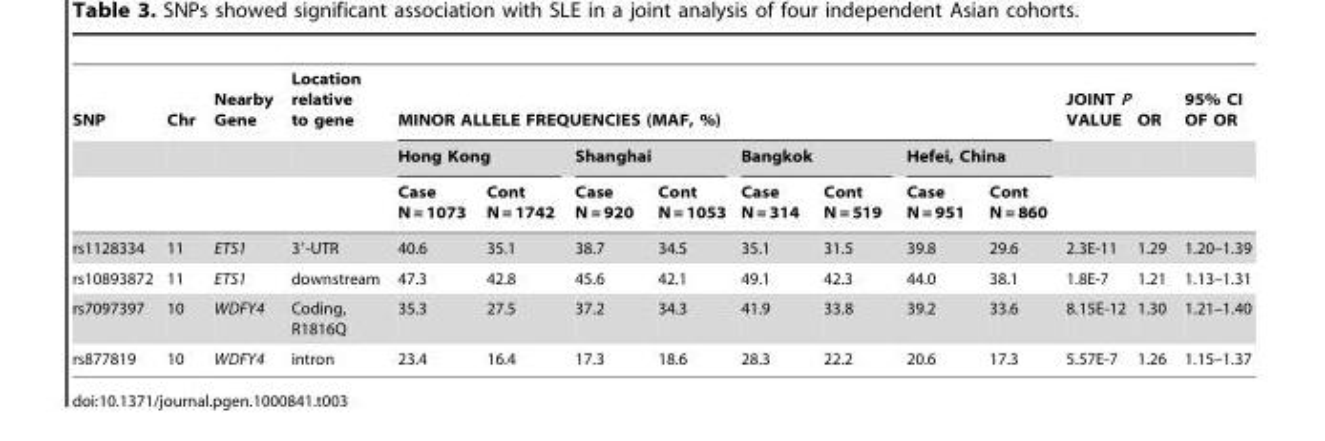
<table><thead><tr><td rowspan="3">SNP</td><td rowspan="3">Chr</td><td rowspan="3">Nearby Gene</td><td rowspan="3">Location relative to gene</td><td colspan="8">MINOR ALLELE FREQUENCIES (MAF, %)</td><td rowspan="3">JOINT P VALUE</td><td rowspan="3">OR</td><td rowspan="3">95% CI OF OR</td></tr><tr><td colspan="2">Hong Kong</td><td colspan="2">Shanghai</td><td colspan="2">Bangkok</td><td colspan="2">Hefei, China</td></tr><tr><td>Case N = 1073</td><td>Cont N = 1742</td><td>Case N = 920</td><td>Cont N = 1053</td><td>Case N = 314</td><td>Cont N = 519</td><td>Case N = 951</td><td>Cont N = 860</td></tr></thead><tbody><tr><td>rs1128334</td><td>11</td><td>ETS1</td><td>3′-UTR</td><td>40.6</td><td>35.1</td><td>38.7</td><td>34.5</td><td>35.1</td><td>31.5</td><td>39.8</td><td>29.6</td><td>2.3E-11</td><td>1.29</td><td>1.20–1.39</td></tr><tr><td>rs10893872</td><td>11</td><td>ETS1</td><td>downstream</td><td>47.3</td><td>42.8</td><td>45.6</td><td>42.1</td><td>49.1</td><td>42.3</td><td>44.0</td><td>38.1</td><td>1.8E-7</td><td>1.21</td><td>1.13–1.31</td></tr><tr><td>rs7097397</td><td>10</td><td>WDFY4</td><td>Coding, R1816Q</td><td>35.3</td><td>27.5</td><td>37.2</td><td>34.3</td><td>41.9</td><td>33.8</td><td>39.2</td><td>33.6</td><td>8.15E-12</td><td>1.30</td><td>1.21–1.40</td></tr><tr><td>rs877819</td><td>10</td><td>WDFY4</td><td>intron</td><td>23.4</td><td>16.4</td><td>17.3</td><td>18.6</td><td>28.3</td><td>22.2</td><td>20.6</td><td>17.3</td><td>5.57E-7</td><td>1.26</td><td>1.15–1.37</td></tr></tbody></table>